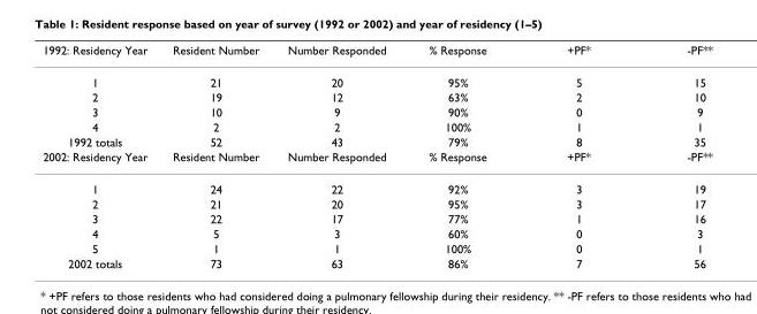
<table><thead><tr><td>1992: Residency Year</td><td>Resident Number</td><td>Number Responded</td><td>% Response</td><td>+PF*</td><td>-PF**</td></tr></thead><tbody><tr><td>1</td><td>21</td><td>20</td><td>95%</td><td>5</td><td>15</td></tr><tr><td>2</td><td>19</td><td>12</td><td>63%</td><td>2</td><td>10</td></tr><tr><td>3</td><td>10</td><td>9</td><td>90%</td><td>0</td><td>9</td></tr><tr><td>4</td><td>2</td><td>2</td><td>100%</td><td>1</td><td>1</td></tr><tr><td>1992 totals</td><td>52</td><td>43</td><td>79%</td><td>8</td><td>35</td></tr><tr><td>2002: Residency Year</td><td>Resident Number</td><td>Number Responded</td><td>% Response</td><td>+PF*</td><td>-PF**</td></tr><tr><td>1</td><td>24</td><td>22</td><td>92%</td><td>3</td><td>19</td></tr><tr><td>2</td><td>21</td><td>20</td><td>95%</td><td>3</td><td>17</td></tr><tr><td>3</td><td>22</td><td>17</td><td>77%</td><td>1</td><td>16</td></tr><tr><td>4</td><td>5</td><td>3</td><td>60%</td><td>0</td><td>3</td></tr><tr><td>5</td><td>1</td><td>1</td><td>100%</td><td>0</td><td>1</td></tr><tr><td>2002 totals</td><td>73</td><td>63</td><td>86%</td><td>7</td><td>56</td></tr></tbody></table>